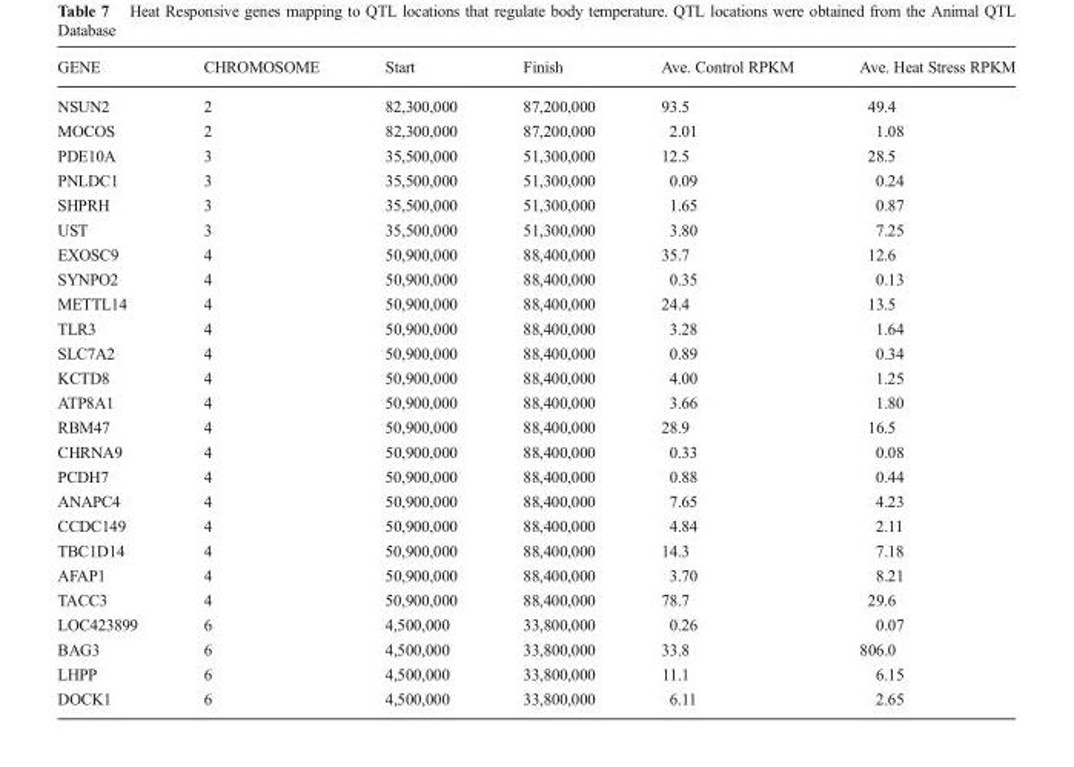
<table><thead><tr><td>GENE</td><td>CHROMOSOME</td><td>Start</td><td>Finish</td><td>Ave. Control RPKM</td><td>Ave. Heat Stress RPKM</td></tr></thead><tbody><tr><td>NSUN2</td><td>2</td><td>82,300,000</td><td>87,200,000</td><td>93.5</td><td>49.4</td></tr><tr><td>MOCOS</td><td>2</td><td>82,300,000</td><td>87,200,000</td><td>2.01</td><td>1.08</td></tr><tr><td>PDE10A</td><td>3</td><td>35,500,000</td><td>51,300,000</td><td>12.5</td><td>28.5</td></tr><tr><td>PNLDC1</td><td>3</td><td>35,500,000</td><td>51,300,000</td><td>0.09</td><td>0.24</td></tr><tr><td>SHPRH</td><td>3</td><td>35,500,000</td><td>51,300,000</td><td>1.65</td><td>0.87</td></tr><tr><td>UST</td><td>3</td><td>35,500,000</td><td>51,300,000</td><td>3.80</td><td>7.25</td></tr><tr><td>EXOSC9</td><td>4</td><td>50,900,000</td><td>88,400,000</td><td>35.7</td><td>12.6</td></tr><tr><td>SYNPO2</td><td>4</td><td>50,900,000</td><td>88,400,000</td><td>0.35</td><td>0.13</td></tr><tr><td>METTL14</td><td>4</td><td>50,900,000</td><td>88,400,000</td><td>24.4</td><td>13.5</td></tr><tr><td>TLR3</td><td>4</td><td>50,900,000</td><td>88,400,000</td><td>3.28</td><td>1.64</td></tr><tr><td>SLC7A2</td><td>4</td><td>50,900,000</td><td>88,400,000</td><td>0.89</td><td>0.34</td></tr><tr><td>KCTD8</td><td>4</td><td>50,900,000</td><td>88,400,000</td><td>4.00</td><td>1.25</td></tr><tr><td>ATP8A1</td><td>4</td><td>50,900,000</td><td>88,400,000</td><td>3.66</td><td>1.80</td></tr><tr><td>RBM47</td><td>4</td><td>50,900,000</td><td>88,400,000</td><td>28.9</td><td>16.5</td></tr><tr><td>CHRNA9</td><td>4</td><td>50,900,000</td><td>88,400,000</td><td>0.33</td><td>0.08</td></tr><tr><td>PCDH7</td><td>4</td><td>50,900,000</td><td>88,400,000</td><td>0.88</td><td>0.44</td></tr><tr><td>ANAPC4</td><td>4</td><td>50,900,000</td><td>88,400,000</td><td>7.65</td><td>4.23</td></tr><tr><td>CCDC149</td><td>4</td><td>50,900,000</td><td>88,400,000</td><td>4.84</td><td>2.11</td></tr><tr><td>TBC1D14</td><td>4</td><td>50,900,000</td><td>88,400,000</td><td>14.3</td><td>7.18</td></tr><tr><td>AFAP1</td><td>4</td><td>50,900,000</td><td>88,400,000</td><td>3.70</td><td>8.21</td></tr><tr><td>TACC3</td><td>4</td><td>50,900,000</td><td>88,400,000</td><td>78.7</td><td>29.6</td></tr><tr><td>LOC423899</td><td>6</td><td>4,500,000</td><td>33,800,000</td><td>0.26</td><td>0.07</td></tr><tr><td>BAG3</td><td>6</td><td>4,500,000</td><td>33,800,000</td><td>33.8</td><td>806.0</td></tr><tr><td>LHPP</td><td>6</td><td>4,500,000</td><td>33,800,000</td><td>11.1</td><td>6.15</td></tr><tr><td>DOCK1</td><td>6</td><td>4,500,000</td><td>33,800,000</td><td>6.11</td><td>2.65</td></tr></tbody></table>